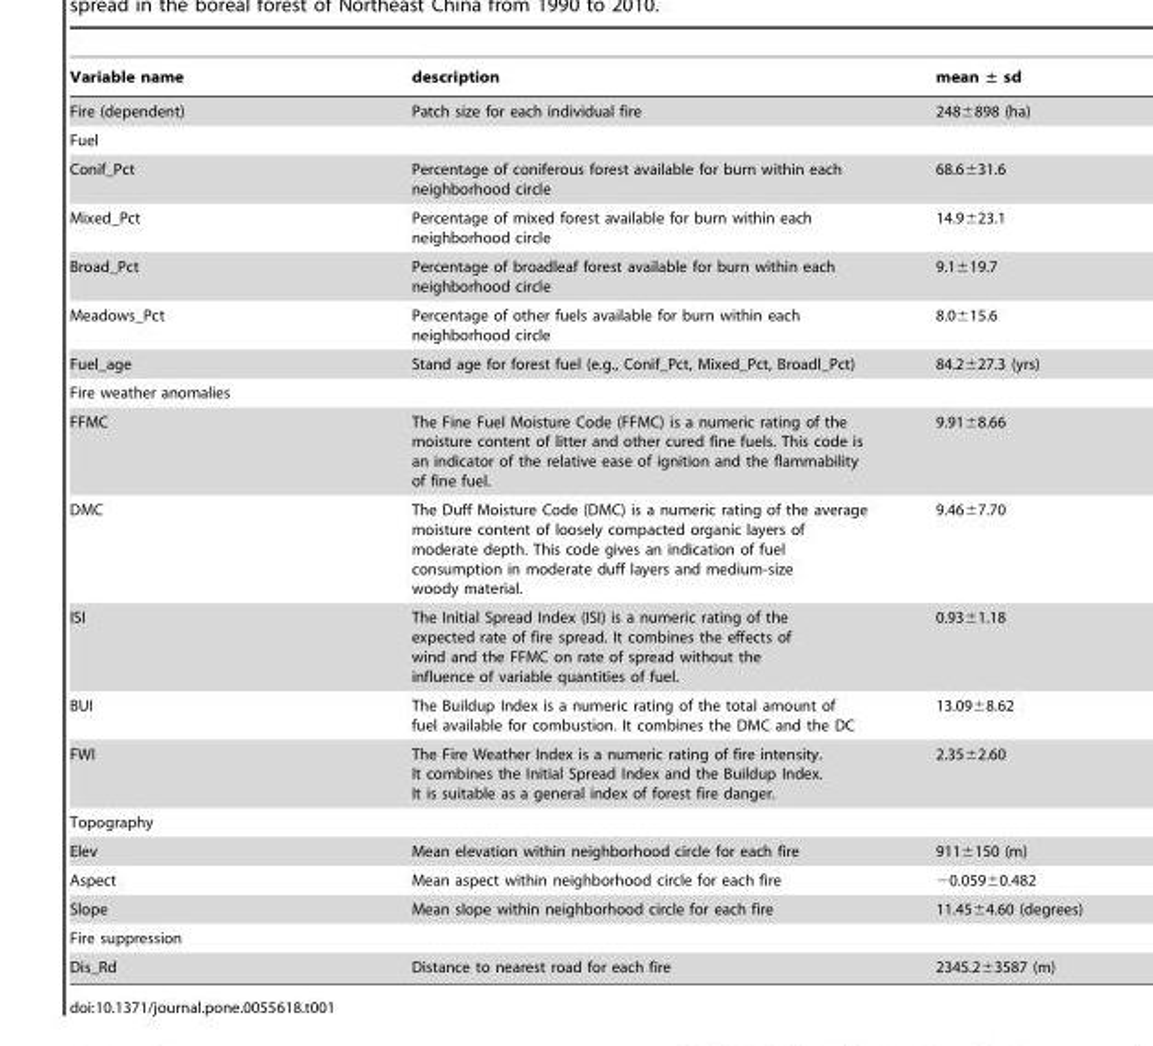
<table><thead><tr><td>Variable name</td><td>description</td><td>mean ± sd</td></tr></thead><tbody><tr><td>Fire (dependent)</td><td>Patch size for each individual fire</td><td>248±898 (ha)</td></tr><tr><td colspan="3">Fuel</td></tr><tr><td>Conif_Pct</td><td>Percentage of coniferous forest available for burn within each neighborhood circle</td><td>68.6±31.6</td></tr><tr><td>Mixed_Pct</td><td>Percentage of mixed forest available for burn within each neighborhood circle</td><td>14.9±23.1</td></tr><tr><td>Broad_Pct</td><td>Percentage of broadleaf forest available for burn within each neighborhood circle</td><td>9.1±19.7</td></tr><tr><td>Meadows_Pct</td><td>Percentage of other fuels available for burn within each neighborhood circle</td><td>8.0±15.6</td></tr><tr><td>Fuel_age</td><td>Stand age for forest fuel (e.g., Conif_Pct, Mixed_Pct, Broadl_Pct)</td><td>84.2±27.3 (yrs)</td></tr><tr><td colspan="3">Fire weather anomalies</td></tr><tr><td>FFMC</td><td>The Fine Fuel Moisture Code (FFMC) is a numeric rating of the moisture content of litter and other cured fine fuels. This code is an indicator of the relative ease of ignition and the flammability of fine fuel.</td><td>9.91±8.66</td></tr><tr><td>DMC</td><td>The Duff Moisture Code (DMC) is a numeric rating of the average moisture content of loosely compacted organic layers of moderate depth. This code gives an indication of fuel consumption in moderate duff layers and medium-size woody material.</td><td>9.46±7.70</td></tr><tr><td>ISI</td><td>The Initial Spread Index (ISI) is a numeric rating of the expected rate of fire spread. It combines the effects of wind and the FFMC on rate of spread without the influence of variable quantities of fuel.</td><td>0.93±1.18</td></tr><tr><td>BUI</td><td>The Buildup Index is a numeric rating of the total amount of fuel available for combustion. It combines the DMC and the DC</td><td>13.09±8.62</td></tr><tr><td>FWI</td><td>The Fire Weather Index is a numeric rating of fire intensity. It combines the Initial Spread Index and the Buildup Index. It is suitable as a general index of forest fire danger.</td><td>2.35±2.60</td></tr><tr><td colspan="3">Topography</td></tr><tr><td>Elev</td><td>Mean elevation within neighborhood circle for each fire</td><td>911±150 (m)</td></tr><tr><td>Aspect</td><td>Mean aspect within neighborhood circle for each fire</td><td>−0.059±0.482</td></tr><tr><td>Slope</td><td>Mean slope within neighborhood circle for each fire</td><td>11.45±4.60 (degrees)</td></tr><tr><td colspan="3">Fire suppression</td></tr><tr><td>Dis_Rd</td><td>Distance to nearest road for each fire</td><td>2345.2±3587 (m)</td></tr></tbody></table>